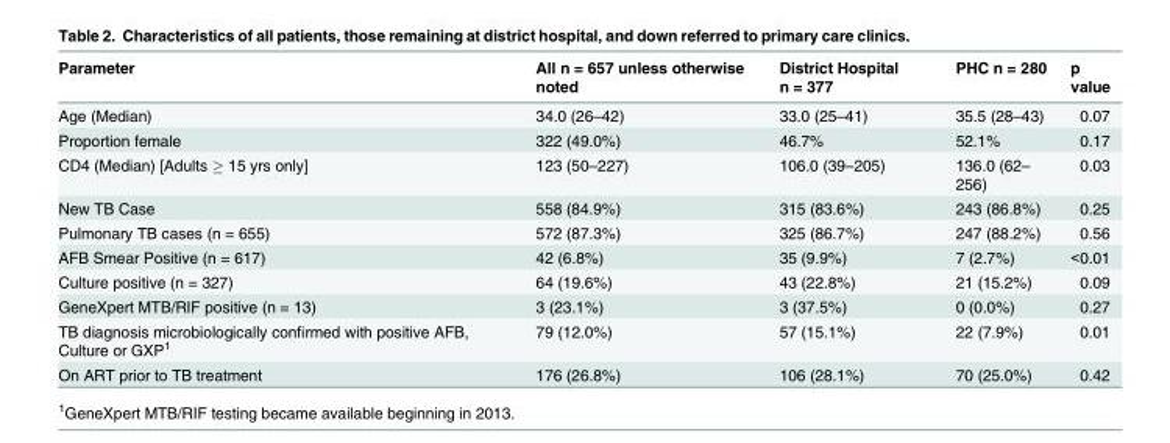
<table><thead><tr><td>Parameter</td><td>All n = 657 unless otherwise noted</td><td>District Hospital n = 377</td><td>PHC n = 280</td><td>p value</td></tr></thead><tbody><tr><td>Age (Median)</td><td>34.0 (26–42)</td><td>33.0 (25–41)</td><td>35.5 (28–43)</td><td>0.07</td></tr><tr><td>Proportion female</td><td>322 (49.0%)</td><td>46.7%</td><td>52.1%</td><td>0.17</td></tr><tr><td>CD4 (Median) [Adults ≥ 15 yrs only]</td><td>123 (50–227)</td><td>106.0 (39–205)</td><td>136.0 (62– 256)</td><td>0.03</td></tr><tr><td>New TB Case</td><td>558 (84.9%)</td><td>315 (83.6%)</td><td>243 (86.8%)</td><td>0.25</td></tr><tr><td>Pulmonary TB cases (n = 655)</td><td>572 (87.3%)</td><td>325 (86.7%)</td><td>247 (88.2%)</td><td>0.56</td></tr><tr><td>AFB Smear Positive (n = 617)</td><td>42 (6.8%)</td><td>35 (9.9%)</td><td>7 (2.7%)</td><td>&lt;0.01</td></tr><tr><td>Culture positive (n = 327)</td><td>64 (19.6%)</td><td>43 (22.8%)</td><td>21 (15.2%)</td><td>0.09</td></tr><tr><td>GeneXpert MTB/RIF positive (n = 13)</td><td>3 (23.1%)</td><td>3 (37.5%)</td><td>0 (0.0%)</td><td>0.27</td></tr><tr><td>TB diagnosis microbiologically confirmed with positive AFB, Culture or GXP<sup>1</sup></td><td>79 (12.0%)</td><td>57 (15.1%)</td><td>22 (7.9%)</td><td>0.01</td></tr><tr><td>On ART prior to TB treatment</td><td>176 (26.8%)</td><td>106 (28.1%)</td><td>70 (25.0%)</td><td>0.42</td></tr></tbody></table>